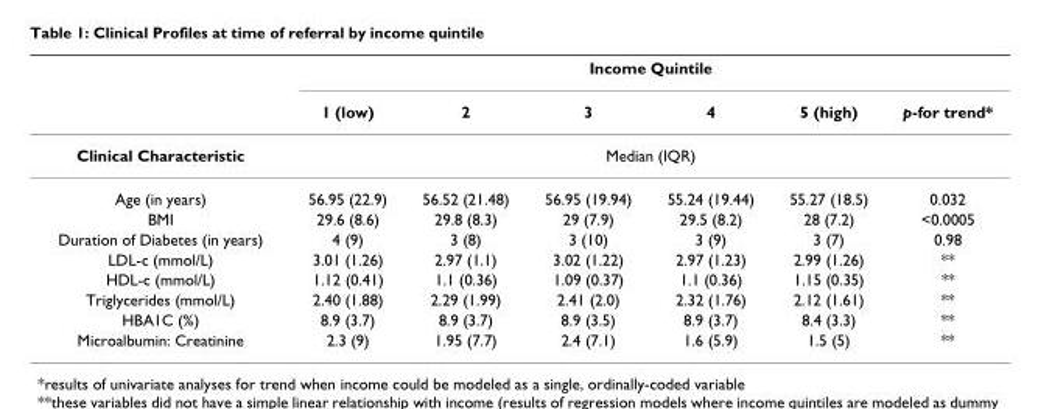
<table><thead><tr><td rowspan="2"></td><td colspan="6">Income Quintile</td></tr><tr><td>1 (low)</td><td>2</td><td>3</td><td>4</td><td>5 (high)</td><td>p-for trend*</td></tr></thead><tbody><tr><td>Clinical Characteristic</td><td colspan="6">Median (IQR)</td></tr><tr><td>Age (in years)</td><td>56.95 (22.9)</td><td>56.52 (21.48)</td><td>56.95 (19.94)</td><td>55.24 (19.44)</td><td>55.27 (18.5)</td><td>0.032</td></tr><tr><td>BMI</td><td>29.6 (8.6)</td><td>29.8 (8.3)</td><td>29 (7.9)</td><td>29.5 (8.2)</td><td>28 (7.2)</td><td>&lt;0.0005</td></tr><tr><td>Duration of Diabetes (in years)</td><td>4 (9)</td><td>3 (8)</td><td>3 (10)</td><td>3 (9)</td><td>3 (7)</td><td>0.98</td></tr><tr><td>LDL-c (mmol/L)</td><td>3.01 (1.26)</td><td>2.97 (1.1)</td><td>3.02 (1.22)</td><td>2.97 (1.23)</td><td>2.99 (1.26)</td><td>**</td></tr><tr><td>HDL-c (mmol/L)</td><td>1.12 (0.41)</td><td>1.1 (0.36)</td><td>1.09 (0.37)</td><td>1.1 (0.36)</td><td>1.15 (0.35)</td><td>**</td></tr><tr><td>Triglycerides (mmol/L)</td><td>2.40 (1.88)</td><td>2.29 (1.99)</td><td>2.41 (2.0)</td><td>2.32 (1.76)</td><td>2.12 (1.61)</td><td>**</td></tr><tr><td>HBA1C (%)</td><td>8.9 (3.7)</td><td>8.9 (3.7)</td><td>8.9 (3.5)</td><td>8.9 (3.7)</td><td>8.4 (3.3)</td><td>**</td></tr><tr><td>Microalbumin: Creatinine</td><td>2.3 (9)</td><td>1.95 (7.7)</td><td>2.4 (7.1)</td><td>1.6 (5.9)</td><td>1.5 (5)</td><td>**</td></tr></tbody></table>